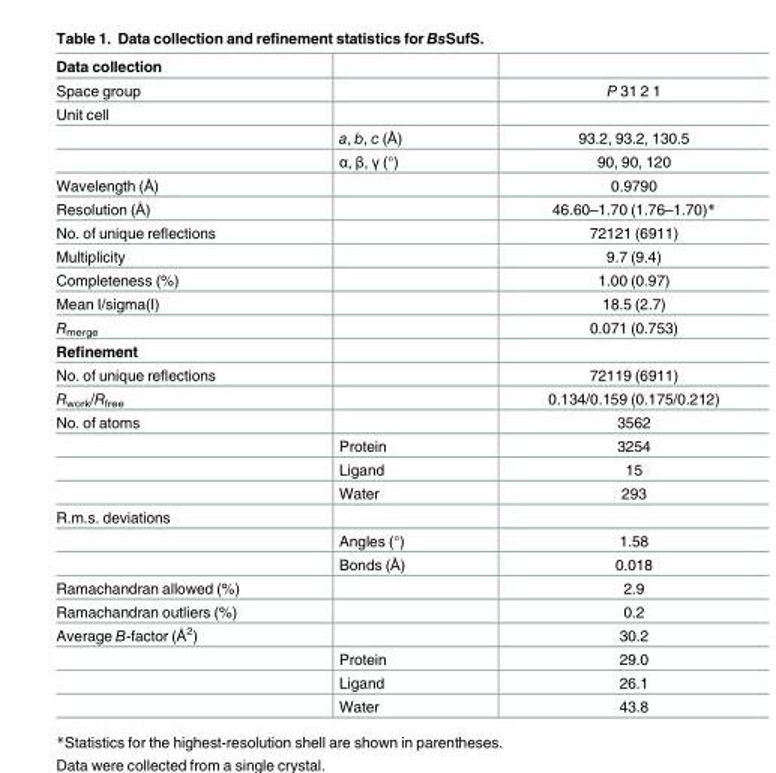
<table><thead><tr><td>Data collection</td><td></td><td></td></tr></thead><tbody><tr><td>Space group</td><td></td><td>P 31 2 1</td></tr><tr><td colspan="3">Unit cell</td></tr><tr><td></td><td>a, b, c (Å)</td><td>93.2, 93.2, 130.5</td></tr><tr><td></td><td>α, β, γ (°)</td><td>90, 90, 120</td></tr><tr><td>Wavelength (Å)</td><td></td><td>0.9790</td></tr><tr><td>Resolution (Å)</td><td></td><td>46.60–1.70 (1.76–1.70)*</td></tr><tr><td>No. of unique reflections</td><td></td><td>72121 (6911)</td></tr><tr><td>Multiplicity</td><td></td><td>9.7 (9.4)</td></tr><tr><td>Completeness (%)</td><td></td><td>1.00 (0.97)</td></tr><tr><td>Mean I/sigma(I)</td><td></td><td>18.5 (2.7)</td></tr><tr><td>R<sub>merge</sub></td><td></td><td>0.071 (0.753)</td></tr><tr><td colspan="3">Refinement</td></tr><tr><td>No. of unique reflections</td><td></td><td>72119 (6911)</td></tr><tr><td>R<sub>work</sub>/R<sub>free</sub></td><td></td><td>0.134/0.159 (0.175/0.212)</td></tr><tr><td rowspan="4">No. of atoms</td><td></td><td>3562</td></tr><tr><td>Protein</td><td>3254</td></tr><tr><td>Ligand</td><td>15</td></tr><tr><td>Water</td><td>293</td></tr><tr><td colspan="3">R.m.s. deviations</td></tr><tr><td></td><td>Angles (°)</td><td>1.58</td></tr><tr><td></td><td>Bonds (Å)</td><td>0.018</td></tr><tr><td>Ramachandran allowed (%)</td><td></td><td>2.9</td></tr><tr><td>Ramachandran outliers (%)</td><td></td><td>0.2</td></tr><tr><td rowspan="4">Average B-factor (Å<sup>2</sup>)</td><td></td><td>30.2</td></tr><tr><td>Protein</td><td>29.0</td></tr><tr><td>Ligand</td><td>26.1</td></tr><tr><td>Water</td><td>43.8</td></tr></tbody></table>